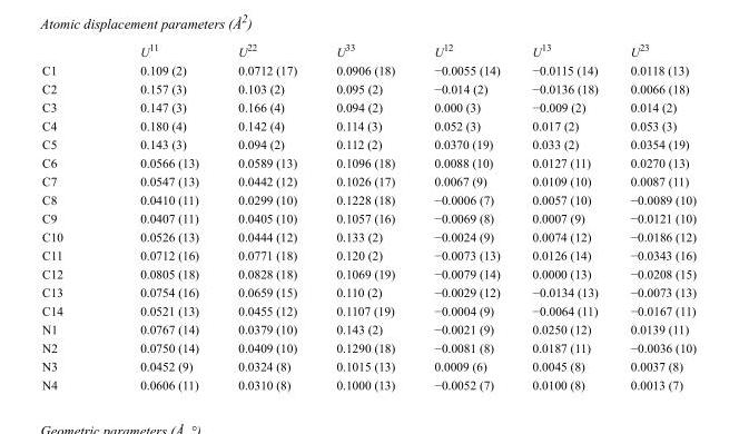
<table><thead><tr><td></td><td>U<sup>11</sup></td><td>U<sup>22</sup></td><td>U<sup>33</sup></td><td>U<sup>12</sup></td><td>U<sup>13</sup></td><td>U<sup>23</sup></td></tr></thead><tbody><tr><td>C1</td><td>0.109 (2)</td><td>0.0712 (17)</td><td>0.0906 (18)</td><td>−0.0055 (14)</td><td>−0.0115 (14)</td><td>0.0118 (13)</td></tr><tr><td>C2</td><td>0.157 (3)</td><td>0.103 (2)</td><td>0.095 (2)</td><td>−0.014 (2)</td><td>−0.0136 (18)</td><td>0.0066 (18)</td></tr><tr><td>C3</td><td>0.147 (3)</td><td>0.166 (4)</td><td>0.094 (2)</td><td>0.000 (3)</td><td>−0.009 (2)</td><td>0.014 (2)</td></tr><tr><td>C4</td><td>0.180 (4)</td><td>0.142 (4)</td><td>0.114 (3)</td><td>0.052 (3)</td><td>0.017 (2)</td><td>0.053 (3)</td></tr><tr><td>C5</td><td>0.143 (3)</td><td>0.094 (2)</td><td>0.112 (2)</td><td>0.0370 (19)</td><td>0.033 (2)</td><td>0.0354 (19)</td></tr><tr><td>C6</td><td>0.0566 (13)</td><td>0.0589 (13)</td><td>0.1096 (18)</td><td>0.0088 (10)</td><td>0.0127 (11)</td><td>0.0270 (13)</td></tr><tr><td>C7</td><td>0.0547 (13)</td><td>0.0442 (12)</td><td>0.1026 (17)</td><td>0.0067 (9)</td><td>0.0109 (10)</td><td>0.0087 (11)</td></tr><tr><td>C8</td><td>0.0410 (11)</td><td>0.0299 (10)</td><td>0.1228 (18)</td><td>−0.0006 (7)</td><td>0.0057 (10)</td><td>−0.0089 (10)</td></tr><tr><td>C9</td><td>0.0407 (11)</td><td>0.0405 (10)</td><td>0.1057 (16)</td><td>−0.0069 (8)</td><td>0.0007 (9)</td><td>−0.0121 (10)</td></tr><tr><td>C10</td><td>0.0526 (13)</td><td>0.0444 (12)</td><td>0.133 (2)</td><td>−0.0024 (9)</td><td>0.0074 (12)</td><td>−0.0186 (12)</td></tr><tr><td>C11</td><td>0.0712 (16)</td><td>0.0771 (18)</td><td>0.120 (2)</td><td>−0.0073 (13)</td><td>0.0126 (14)</td><td>−0.0343 (16)</td></tr><tr><td>C12</td><td>0.0805 (18)</td><td>0.0828 (18)</td><td>0.1069 (19)</td><td>−0.0079 (14)</td><td>0.0000 (13)</td><td>−0.0208 (15)</td></tr><tr><td>C13</td><td>0.0754 (16)</td><td>0.0659 (15)</td><td>0.110 (2)</td><td>−0.0029 (12)</td><td>−0.0134 (13)</td><td>−0.0073 (13)</td></tr><tr><td>C14</td><td>0.0521 (13)</td><td>0.0455 (12)</td><td>0.1107 (19)</td><td>−0.0004 (9)</td><td>−0.0064 (11)</td><td>−0.0167 (11)</td></tr><tr><td>N1</td><td>0.0767 (14)</td><td>0.0379 (10)</td><td>0.143 (2)</td><td>−0.0021 (9)</td><td>0.0250 (12)</td><td>0.0139 (11)</td></tr><tr><td>N2</td><td>0.0750 (14)</td><td>0.0409 (10)</td><td>0.1290 (18)</td><td>−0.0081 (8)</td><td>0.0187 (11)</td><td>−0.0036 (10)</td></tr><tr><td>N3</td><td>0.0452 (9)</td><td>0.0324 (8)</td><td>0.1015 (13)</td><td>0.0009 (6)</td><td>0.0045 (8)</td><td>0.0037 (8)</td></tr><tr><td>N4</td><td>0.0606 (11)</td><td>0.0310 (8)</td><td>0.1000 (13)</td><td>−0.0052 (7)</td><td>0.0100 (8)</td><td>0.0013 (7)</td></tr></tbody></table>